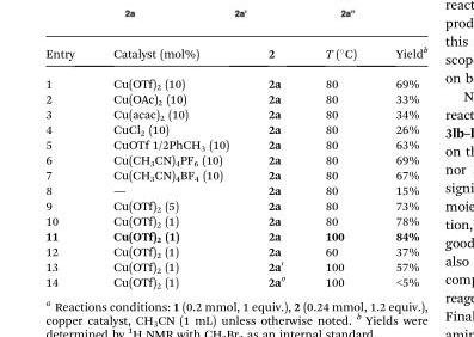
<table><thead><tr><td>Entry</td><td>Catalyst (mol%)</td><td>2</td><td>T (°C)</td><td>Yield<sup>b</sup></td></tr></thead><tbody><tr><td>1</td><td>Cu(OTf)<sub>2</sub> (10)</td><td>2a</td><td>80</td><td>69%</td></tr><tr><td>2</td><td>Cu(OAc)<sub>2</sub> (10)</td><td>2a</td><td>80</td><td>33%</td></tr><tr><td>3</td><td>Cu(acac)<sub>2</sub> (10)</td><td>2a</td><td>80</td><td>34%</td></tr><tr><td>4</td><td>CuCl<sub>2</sub> (10)</td><td>2a</td><td>80</td><td>26%</td></tr><tr><td>5</td><td>CuOTf 1/2PhCH<sub>3</sub> (10)</td><td>2a</td><td>80</td><td>63%</td></tr><tr><td>6</td><td>Cu(CH<sub>3</sub>CN)<sub>4</sub>PF<sub>6</sub> (10)</td><td>2a</td><td>80</td><td>69%</td></tr><tr><td>7</td><td>Cu(CH<sub>3</sub>CN)<sub>4</sub>BF<sub>4</sub> (10)</td><td>2a</td><td>80</td><td>67%</td></tr><tr><td>8</td><td>—</td><td>2a</td><td>80</td><td>15%</td></tr><tr><td>9</td><td>Cu(OTf)<sub>2</sub> (5)</td><td>2a</td><td>80</td><td>73%</td></tr><tr><td>10</td><td>Cu(OTf)<sub>2</sub> (1)</td><td>2a</td><td>80</td><td>78%</td></tr><tr><td>11</td><td>Cu(OTf)<sub>2</sub> (1)</td><td>2a</td><td>100</td><td>84%</td></tr><tr><td>12</td><td>Cu(OTf)<sub>2</sub> (1)</td><td>2a</td><td>60</td><td>37%</td></tr><tr><td>13</td><td>Cu(OTf)<sub>2</sub> (1)</td><td>2a′</td><td>100</td><td>57%</td></tr><tr><td>14</td><td>Cu(OTf)<sub>2</sub> (1)</td><td>2a′′</td><td>100</td><td>&lt;5%</td></tr></tbody></table>